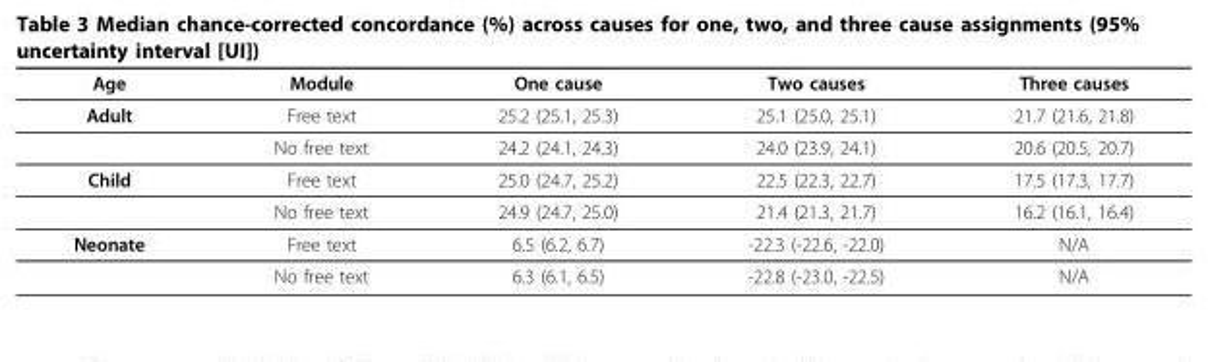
<table><thead><tr><td>Age</td><td>Module</td><td>One cause</td><td>Two causes</td><td>Three causes</td></tr></thead><tbody><tr><td rowspan="2">Adult</td><td>Free text</td><td>25.2 (25.1, 25.3)</td><td>25.1 (25.0, 25.1)</td><td>21.7 (21.6, 21.8)</td></tr><tr><td>No free text</td><td>24.2 (24.1, 24.3)</td><td>24.0 (23.9, 24.1)</td><td>20.6 (20.5, 20.7)</td></tr><tr><td rowspan="2">Child</td><td>Free text</td><td>25.0 (24.7, 25.2)</td><td>22.5 (22.3, 22.7)</td><td>17.5 (17.3, 17.7)</td></tr><tr><td>No free text</td><td>24.9 (24.7, 25.0)</td><td>21.4 (21.3, 21.7)</td><td>16.2 (16.1, 16.4)</td></tr><tr><td rowspan="2">Neonate</td><td>Free text</td><td>6.5 (6.2, 6.7)</td><td>-22.3 (-22.6, -22.0)</td><td>N/A</td></tr><tr><td>No free text</td><td>6.3 (6.1, 6.5)</td><td>-22.8 (-23.0, -22.5)</td><td>N/A</td></tr></tbody></table>